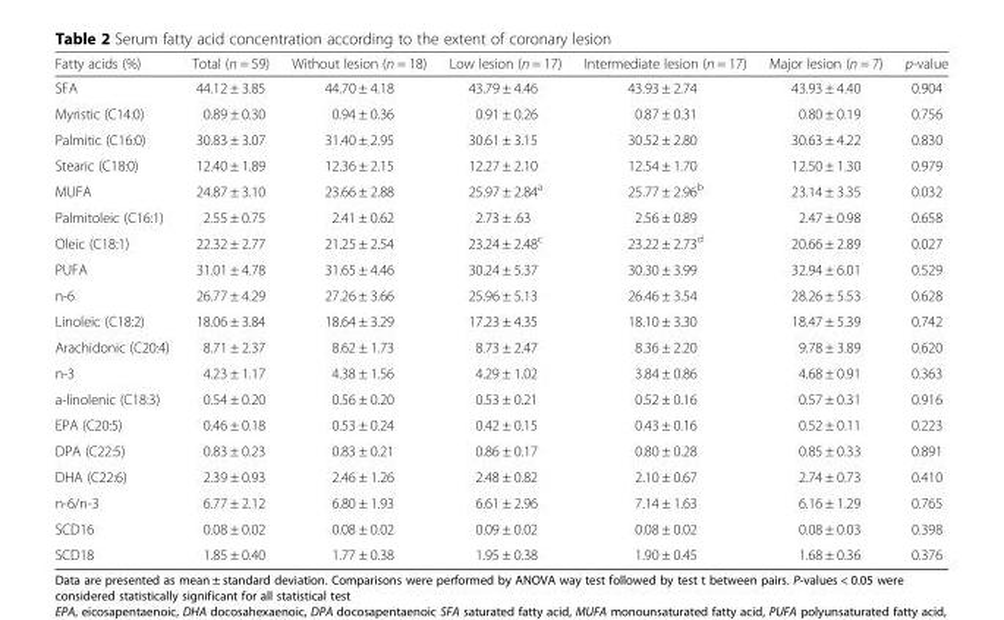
<table><thead><tr><td>Fatty acids (%)</td><td>Total (n = 59)</td><td>Without lesion (n = 18)</td><td>Low lesion (n = 17)</td><td>Intermediate lesion (n = 17)</td><td>Major lesion (n = 7)</td><td>p-value</td></tr></thead><tbody><tr><td>SFA</td><td>44.12 ± 3.85</td><td>44.70 ± 4.18</td><td>43.79 ± 4.46</td><td>43.93 ± 2.74</td><td>43.93 ± 4.40</td><td>0.904</td></tr><tr><td>Myristic (C14:0)</td><td>0.89 ± 0.30</td><td>0.94 ± 0.36</td><td>0.91 ± 0.26</td><td>0.87 ± 0.31</td><td>0.80 ± 0.19</td><td>0.756</td></tr><tr><td>Palmitic (C16:0)</td><td>30.83 ± 3.07</td><td>31.40 ± 2.95</td><td>30.61 ± 3.15</td><td>30.52 ± 2.80</td><td>30.63 ± 4.22</td><td>0.830</td></tr><tr><td>Stearic (C18:0)</td><td>12.40 ± 1.89</td><td>12.36 ± 2.15</td><td>12.27 ± 2.10</td><td>12.54 ± 1.70</td><td>12.50 ± 1.30</td><td>0.979</td></tr><tr><td>MUFA</td><td>24.87 ± 3.10</td><td>23.66 ± 2.88</td><td>25.97 ± 2.84<sup>a</sup></td><td>25.77 ± 2.96<sup>b</sup></td><td>23.14 ± 3.35</td><td>0.032</td></tr><tr><td>Palmitoleic (C16:1)</td><td>2.55 ± 0.75</td><td>2.41 ± 0.62</td><td>2.73 ± .63</td><td>2.56 ± 0.89</td><td>2.47 ± 0.98</td><td>0.658</td></tr><tr><td>Oleic (C18:1)</td><td>22.32 ± 2.77</td><td>21.25 ± 2.54</td><td>23.24 ± 2.48<sup>c</sup></td><td>23.22 ± 2.73<sup>d</sup></td><td>20.66 ± 2.89</td><td>0.027</td></tr><tr><td>PUFA</td><td>31.01 ± 4.78</td><td>31.65 ± 4.46</td><td>30.24 ± 5.37</td><td>30.30 ± 3.99</td><td>32.94 ± 6.01</td><td>0.529</td></tr><tr><td>n-6</td><td>26.77 ± 4.29</td><td>27.26 ± 3.66</td><td>25.96 ± 5.13</td><td>26.46 ± 3.54</td><td>28.26 ± 5.53</td><td>0.628</td></tr><tr><td>Linoleic (C18:2)</td><td>18.06 ± 3.84</td><td>18.64 ± 3.29</td><td>17.23 ± 4.35</td><td>18.10 ± 3.30</td><td>18.47 ± 5.39</td><td>0.742</td></tr><tr><td>Arachidonic (C20:4)</td><td>8.71 ± 2.37</td><td>8.62 ± 1.73</td><td>8.73 ± 2.47</td><td>8.36 ± 2.20</td><td>9.78 ± 3.89</td><td>0.620</td></tr><tr><td>n-3</td><td>4.23 ± 1.17</td><td>4.38 ± 1.56</td><td>4.29 ± 1.02</td><td>3.84 ± 0.86</td><td>4.68 ± 0.91</td><td>0.363</td></tr><tr><td>a-linolenic (C18:3)</td><td>0.54 ± 0.20</td><td>0.56 ± 0.20</td><td>0.53 ± 0.21</td><td>0.52 ± 0.16</td><td>0.57 ± 0.31</td><td>0.916</td></tr><tr><td>EPA (C20:5)</td><td>0.46 ± 0.18</td><td>0.53 ± 0.24</td><td>0.42 ± 0.15</td><td>0.43 ± 0.16</td><td>0.52 ± 0.11</td><td>0.223</td></tr><tr><td>DPA (C22:5)</td><td>0.83 ± 0.23</td><td>0.83 ± 0.21</td><td>0.86 ± 0.17</td><td>0.80 ± 0.28</td><td>0.85 ± 0.33</td><td>0.891</td></tr><tr><td>DHA (C22:6)</td><td>2.39 ± 0.93</td><td>2.46 ± 1.26</td><td>2.48 ± 0.82</td><td>2.10 ± 0.67</td><td>2.74 ± 0.73</td><td>0.410</td></tr><tr><td>n-6/n-3</td><td>6.77 ± 2.12</td><td>6.80 ± 1.93</td><td>6.61 ± 2.96</td><td>7.14 ± 1.63</td><td>6.16 ± 1.29</td><td>0.765</td></tr><tr><td>SCD16</td><td>0.08 ± 0.02</td><td>0.08 ± 0.02</td><td>0.09 ± 0.02</td><td>0.08 ± 0.02</td><td>0.08 ± 0.03</td><td>0.398</td></tr><tr><td>SCD18</td><td>1.85 ± 0.40</td><td>1.77 ± 0.38</td><td>1.95 ± 0.38</td><td>1.90 ± 0.45</td><td>1.68 ± 0.36</td><td>0.376</td></tr></tbody></table>